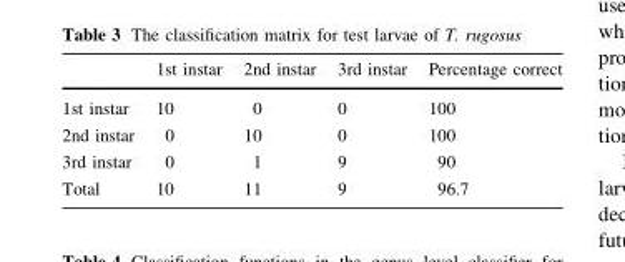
<table><thead><tr><td></td><td>1st instar</td><td>2nd instar</td><td>3rd instar</td><td>Percentage correct</td></tr></thead><tbody><tr><td>1st instar</td><td>10</td><td>0</td><td>0</td><td>100</td></tr><tr><td>2nd instar</td><td>0</td><td>10</td><td>0</td><td>100</td></tr><tr><td>3rd instar</td><td>0</td><td>1</td><td>9</td><td>90</td></tr><tr><td>Total</td><td>10</td><td>11</td><td>9</td><td>96.7</td></tr></tbody></table>